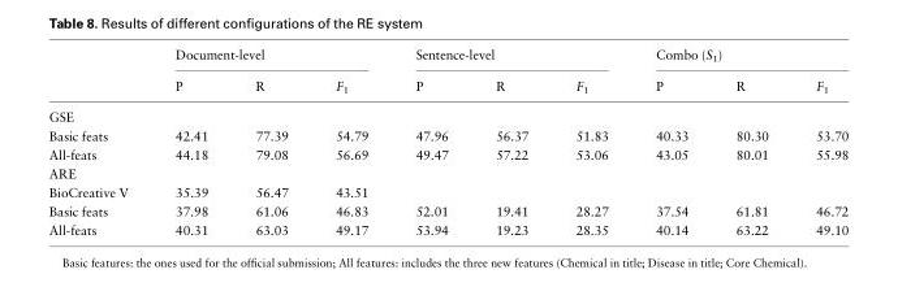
<table><thead><tr><td rowspan="2"></td><td colspan="3">Document-level</td><td colspan="3">Sentence-level</td><td colspan="3">Combo (S<sub>1</sub>)</td></tr><tr><td>P</td><td>R</td><td>F<sub>1</sub></td><td>P</td><td>R</td><td>F<sub>1</sub></td><td>P</td><td>R</td><td>F<sub>1</sub></td></tr></thead><tbody><tr><td colspan="10">GSE</td></tr><tr><td>Basic feats</td><td>42.41</td><td>77.39</td><td>54.79</td><td>47.96</td><td>56.37</td><td>51.83</td><td>40.33</td><td>80.30</td><td>53.70</td></tr><tr><td>All-feats</td><td>44.18</td><td>79.08</td><td>56.69</td><td>49.47</td><td>57.22</td><td>53.06</td><td>43.05</td><td>80.01</td><td>55.98</td></tr><tr><td colspan="10">ARE</td></tr><tr><td>BioCreative V</td><td>35.39</td><td>56.47</td><td>43.51</td><td></td><td></td><td></td><td></td><td></td><td></td></tr><tr><td>Basic feats</td><td>37.98</td><td>61.06</td><td>46.83</td><td>52.01</td><td>19.41</td><td>28.27</td><td>37.54</td><td>61.81</td><td>46.72</td></tr><tr><td>All-feats</td><td>40.31</td><td>63.03</td><td>49.17</td><td>53.94</td><td>19.23</td><td>28.35</td><td>40.14</td><td>63.22</td><td>49.10</td></tr></tbody></table>